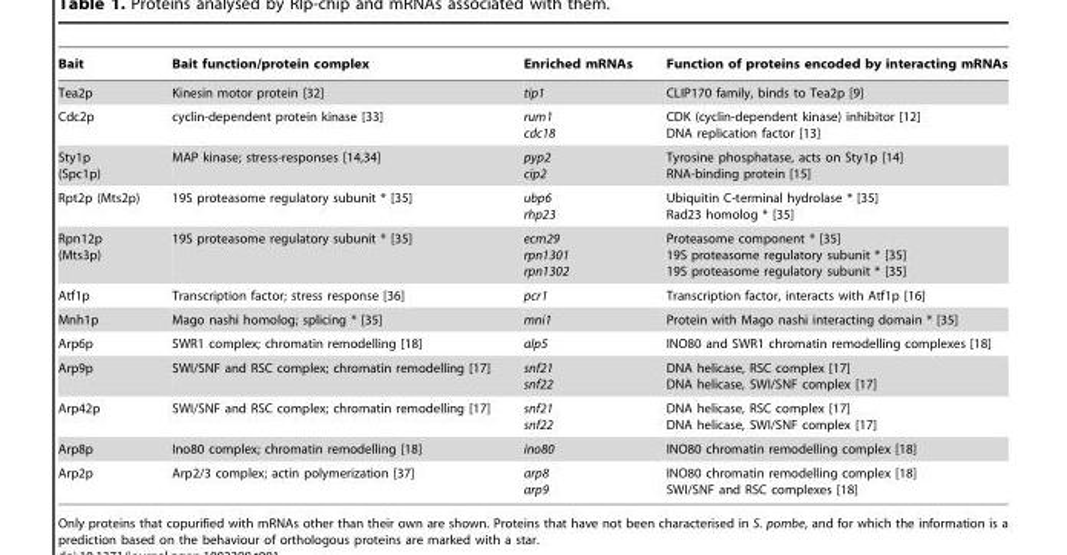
<table><thead><tr><td>Bait</td><td>Bait function/protein complex</td><td>Enriched mRNAs</td><td>Function of proteins encoded by interacting mRNAs</td></tr></thead><tbody><tr><td>Tea2p</td><td>Kinesin motor protein [32]</td><td>tip1</td><td>CLIP170 family, binds to Tea2p [9]</td></tr><tr><td>Cdc2p</td><td>cyclin-dependent protein kinase [33]</td><td>rum1 cdc18</td><td>CDK (cyclin-dependent kinase) inhibitor [12] DNA replication factor [13]</td></tr><tr><td>Sty1p (Spc1p)</td><td>MAP kinase; stress-responses [14,34]</td><td>pyp2 cip2</td><td>Tyrosine phosphatase, acts on Sty1p [14] RNA-binding protein [15]</td></tr><tr><td>Rpt2p (Mts2p)</td><td>19S proteasome regulatory subunit * [35]</td><td>ubp6 rhp23</td><td>Ubiquitin C-terminal hydrolase * [35] Rad23 homolog * [35]</td></tr><tr><td>Rpn12p (Mts3p)</td><td>19S proteasome regulatory subunit * [35]</td><td>ecm29 rpn1301 rpn1302</td><td>Proteasome component * [35] 19S proteasome regulatory subunit * [35] 19S proteasome regulatory subunit * [35]</td></tr><tr><td>Atf1p</td><td>Transcription factor; stress response [36]</td><td>pcr1</td><td>Transcription factor, interacts with Atf1p [16]</td></tr><tr><td>Mnh1p</td><td>Mago nashi homolog; splicing * [35]</td><td>mni1</td><td>Protein with Mago nashi interacting domain * [35]</td></tr><tr><td>Arp6p</td><td>SWR1 complex; chromatin remodelling [18]</td><td>alp5</td><td>INO80 and SWR1 chromatin remodelling complexes [18]</td></tr><tr><td>Arp9p</td><td>SWI/SNF and RSC complex; chromatin remodelling [17]</td><td>snf21 snf22</td><td>DNA helicase, RSC complex [17] DNA helicase, SWI/SNF complex [17]</td></tr><tr><td>Arp42p</td><td>SWI/SNF and RSC complex; chromatin remodelling [17]</td><td>snf21 snf22</td><td>DNA helicase, RSC complex [17] DNA helicase, SWI/SNF complex [17]</td></tr><tr><td>Arp8p</td><td>Ino80 complex; chromatin remodelling [18]</td><td>ino80</td><td>INO80 chromatin remodelling complex [18]</td></tr><tr><td>Arp2p</td><td>Arp2/3 complex; actin polymerization [37]</td><td>arp8 arp9</td><td>INO80 chromatin remodelling complex [18] SWI/SNF and RSC complexes [18]</td></tr></tbody></table>